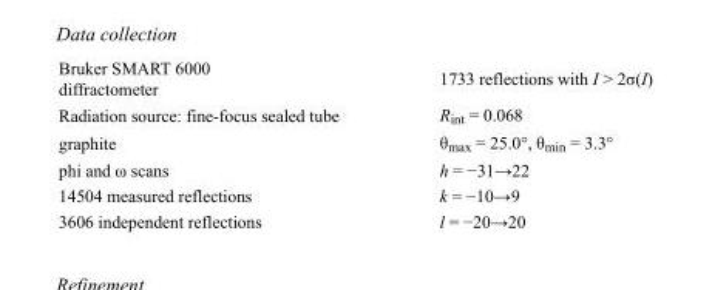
<table><tbody><tr><td>Bruker SMART 6000 diffractometer</td><td>1733 reflections with I &gt; 2σ(I)</td></tr><tr><td>Radiation source: fine-focus sealed tube</td><td>R<sub>int</sub> = 0.068</td></tr><tr><td>graphite</td><td>θ<sub>max</sub> = 25.0°, θ<sub>min</sub> = 3.3°</td></tr><tr><td>phi and ω scans</td><td>h = −31→22</td></tr><tr><td>14504 measured reflections</td><td>k = −10→9</td></tr><tr><td>3606 independent reflections</td><td>l = −20→20</td></tr></tbody></table>